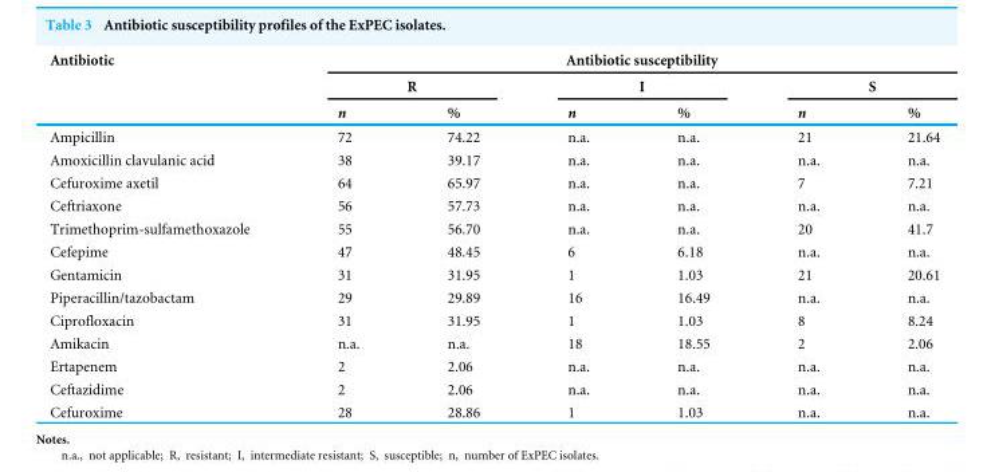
<table><thead><tr><td rowspan="3">Antibiotic</td><td colspan="6">Antibiotic susceptibility</td></tr><tr><td colspan="2">R</td><td colspan="2">I</td><td colspan="2">S</td></tr><tr><td>n</td><td>%</td><td>n</td><td>%</td><td>n</td><td>%</td></tr></thead><tbody><tr><td>Ampicillin</td><td>72</td><td>74.22</td><td>n.a.</td><td>n.a.</td><td>21</td><td>21.64</td></tr><tr><td>Amoxicillin clavulanic acid</td><td>38</td><td>39.17</td><td>n.a.</td><td>n.a.</td><td>n.a.</td><td>n.a.</td></tr><tr><td>Cefuroxime axetil</td><td>64</td><td>65.97</td><td>n.a.</td><td>n.a.</td><td>7</td><td>7.21</td></tr><tr><td>Ceftriaxone</td><td>56</td><td>57.73</td><td>n.a.</td><td>n.a.</td><td>n.a.</td><td>n.a.</td></tr><tr><td>Trimethoprim-sulfamethoxazole</td><td>55</td><td>56.70</td><td>n.a.</td><td>n.a.</td><td>20</td><td>41.7</td></tr><tr><td>Cefepime</td><td>47</td><td>48.45</td><td>6</td><td>6.18</td><td>n.a.</td><td>n.a.</td></tr><tr><td>Gentamicin</td><td>31</td><td>31.95</td><td>1</td><td>1.03</td><td>21</td><td>20.61</td></tr><tr><td>Piperacillin/tazobactam</td><td>29</td><td>29.89</td><td>16</td><td>16.49</td><td>n.a.</td><td>n.a.</td></tr><tr><td>Ciprofloxacin</td><td>31</td><td>31.95</td><td>1</td><td>1.03</td><td>8</td><td>8.24</td></tr><tr><td>Amikacin</td><td>n.a.</td><td>n.a.</td><td>18</td><td>18.55</td><td>2</td><td>2.06</td></tr><tr><td>Ertapenem</td><td>2</td><td>2.06</td><td>n.a.</td><td>n.a.</td><td>n.a.</td><td>n.a.</td></tr><tr><td>Ceftazidime</td><td>2</td><td>2.06</td><td>n.a.</td><td>n.a.</td><td>n.a.</td><td>n.a.</td></tr><tr><td>Cefuroxime</td><td>28</td><td>28.86</td><td>1</td><td>1.03</td><td>n.a.</td><td>n.a.</td></tr></tbody></table>